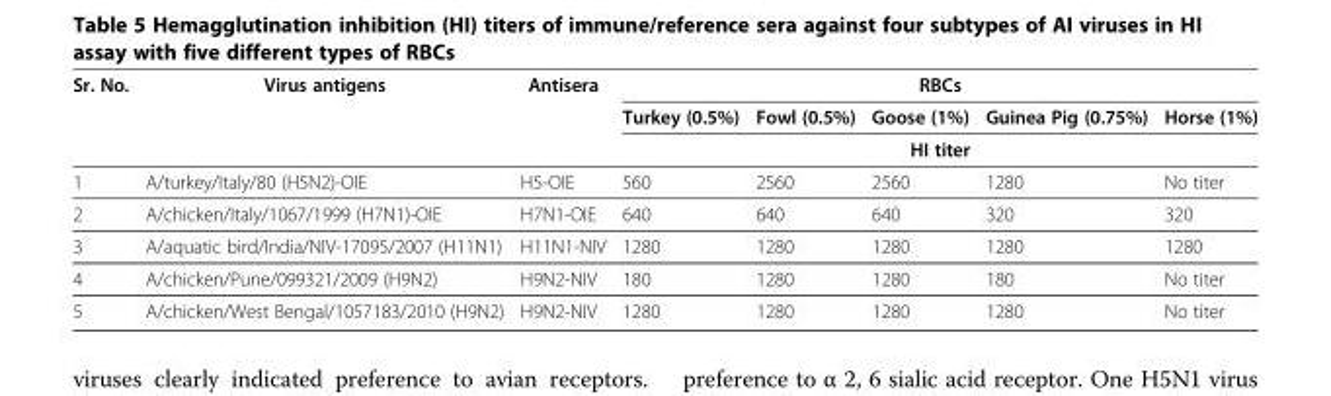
<table><thead><tr><td rowspan="3">Sr. No.</td><td rowspan="3">Virus antigens</td><td rowspan="3">Antisera</td><td colspan="5">RBCs</td></tr><tr><td>Turkey (0.5%)</td><td>Fowl (0.5%)</td><td>Goose (1%)</td><td>Guinea Pig (0.75%)</td><td>Horse (1%)</td></tr><tr><td colspan="5">HI titer</td></tr></thead><tbody><tr><td>1</td><td>A/turkey/Italy/80 (H5N2)-OIE</td><td>H5-OIE</td><td>560</td><td>2560</td><td>2560</td><td>1280</td><td>No titer</td></tr><tr><td>2</td><td>A/chicken/Italy/1067/1999 (H7N1)-OIE</td><td>H7N1-OIE</td><td>640</td><td>640</td><td>640</td><td>320</td><td>320</td></tr><tr><td>3</td><td>A/aquatic bird/India/NIV-17095/2007 (H11N1)</td><td>H11N1-NIV</td><td>1280</td><td>1280</td><td>1280</td><td>1280</td><td>1280</td></tr><tr><td>4</td><td>A/chicken/Pune/099321/2009 (H9N2)</td><td>H9N2-NIV</td><td>180</td><td>1280</td><td>1280</td><td>180</td><td>No titer</td></tr><tr><td>5</td><td>A/chicken/West Bengal/1057183/2010 (H9N2)</td><td>H9N2-NIV</td><td>1280</td><td>1280</td><td>1280</td><td>1280</td><td>No titer</td></tr></tbody></table>